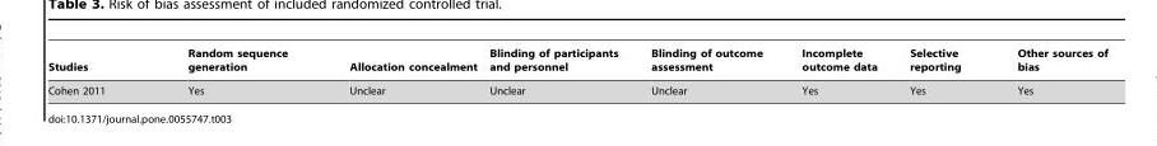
<table><thead><tr><td>Studies</td><td>Random sequence generation</td><td>Allocation concealment</td><td>Blinding of participants and personnel</td><td>Blinding of outcome assessment</td><td>Incomplete outcome data</td><td>Selective reporting</td><td>Other sources of bias</td></tr></thead><tbody><tr><td>Cohen 2011</td><td>Yes</td><td>Unclear</td><td>Unclear</td><td>Unclear</td><td>Yes</td><td>Yes</td><td>Yes</td></tr></tbody></table>